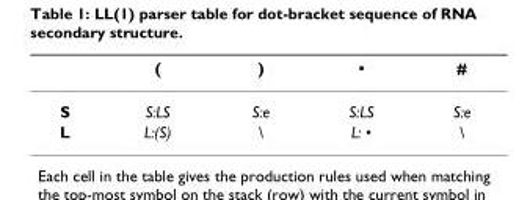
<table><thead><tr><td></td><td>(</td><td>)</td><td>•</td><td>#</td></tr></thead><tbody><tr><td>S</td><td>S:LS</td><td>S:e</td><td>S:LS</td><td>S:e</td></tr><tr><td>L</td><td>L:(S)</td><td>\</td><td>L: •</td><td>\</td></tr></tbody></table>